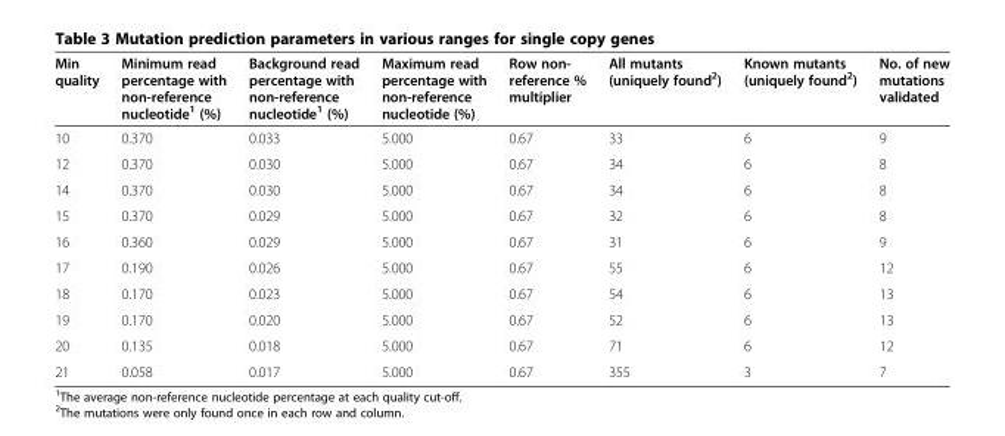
<table><thead><tr><td>Min quality</td><td>Minimum read percentage with non-reference nucleotide<sup>1</sup> (%)</td><td>Background read percentage with non-reference nucleotide<sup>1</sup> (%)</td><td>Maximum read percentage with non-reference nucleotide (%)</td><td>Row non- reference % multiplier</td><td>All mutants (uniquely found<sup>2</sup>)</td><td>Known mutants (uniquely found<sup>2</sup>)</td><td>No. of new mutations validated</td></tr></thead><tbody><tr><td>10</td><td>0.370</td><td>0.033</td><td>5.000</td><td>0.67</td><td>33</td><td>6</td><td>9</td></tr><tr><td>12</td><td>0.370</td><td>0.030</td><td>5.000</td><td>0.67</td><td>34</td><td>6</td><td>8</td></tr><tr><td>14</td><td>0.370</td><td>0.030</td><td>5.000</td><td>0.67</td><td>34</td><td>6</td><td>8</td></tr><tr><td>15</td><td>0.370</td><td>0.029</td><td>5.000</td><td>0.67</td><td>32</td><td>6</td><td>8</td></tr><tr><td>16</td><td>0.360</td><td>0.029</td><td>5.000</td><td>0.67</td><td>31</td><td>6</td><td>9</td></tr><tr><td>17</td><td>0.190</td><td>0.026</td><td>5.000</td><td>0.67</td><td>55</td><td>6</td><td>12</td></tr><tr><td>18</td><td>0.170</td><td>0.023</td><td>5.000</td><td>0.67</td><td>54</td><td>6</td><td>13</td></tr><tr><td>19</td><td>0.170</td><td>0.020</td><td>5.000</td><td>0.67</td><td>52</td><td>6</td><td>13</td></tr><tr><td>20</td><td>0.135</td><td>0.018</td><td>5.000</td><td>0.67</td><td>71</td><td>6</td><td>12</td></tr><tr><td>21</td><td>0.058</td><td>0.017</td><td>5.000</td><td>0.67</td><td>355</td><td>3</td><td>7</td></tr></tbody></table>